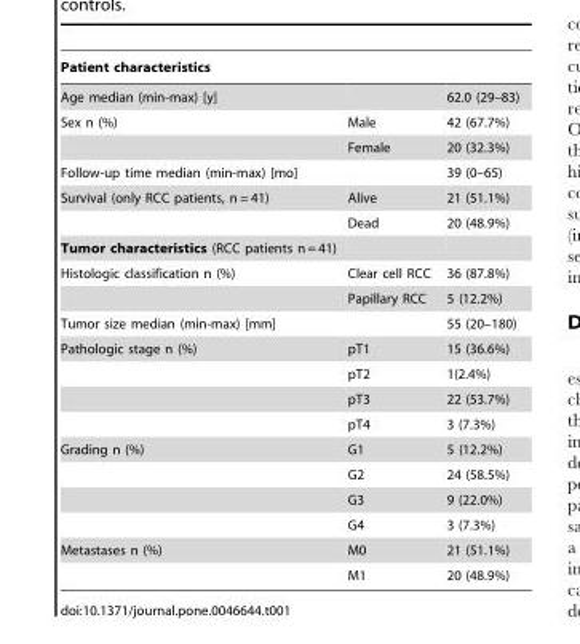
<table><thead><tr><td>Patient characteristics</td><td></td><td></td></tr></thead><tbody><tr><td>Age median (min-max) [y]</td><td></td><td>62.0 (29–83)</td></tr><tr><td rowspan="2">Sex n (%)</td><td>Male</td><td>42 (67.7%)</td></tr><tr><td>Female</td><td>20 (32.3%)</td></tr><tr><td>Follow-up time median (min-max) [mo]</td><td></td><td>39 (0–65)</td></tr><tr><td rowspan="2">Survival (only RCC patients, n = 41)</td><td>Alive</td><td>21 (51.1%)</td></tr><tr><td>Dead</td><td>20 (48.9%)</td></tr><tr><td colspan="3">Tumor characteristics (RCC patients n = 41)</td></tr><tr><td rowspan="2">Histologic classification n (%)</td><td>Clear cell RCC</td><td>36 (87.8%)</td></tr><tr><td>Papillary RCC</td><td>5 (12.2%)</td></tr><tr><td>Tumor size median (min-max) [mm]</td><td></td><td>55 (20–180)</td></tr><tr><td rowspan="4">Pathologic stage n (%)</td><td>pT1</td><td>15 (36.6%)</td></tr><tr><td>pT2</td><td>1(2.4%)</td></tr><tr><td>pT3</td><td>22 (53.7%)</td></tr><tr><td>pT4</td><td>3 (7.3%)</td></tr><tr><td rowspan="4">Grading n (%)</td><td>G1</td><td>5 (12.2%)</td></tr><tr><td>G2</td><td>24 (58.5%)</td></tr><tr><td>G3</td><td>9 (22.0%)</td></tr><tr><td>G4</td><td>3 (7.3%)</td></tr><tr><td rowspan="2">Metastases n (%)</td><td>M0</td><td>21 (51.1%)</td></tr><tr><td>M1</td><td>20 (48.9%)</td></tr></tbody></table>